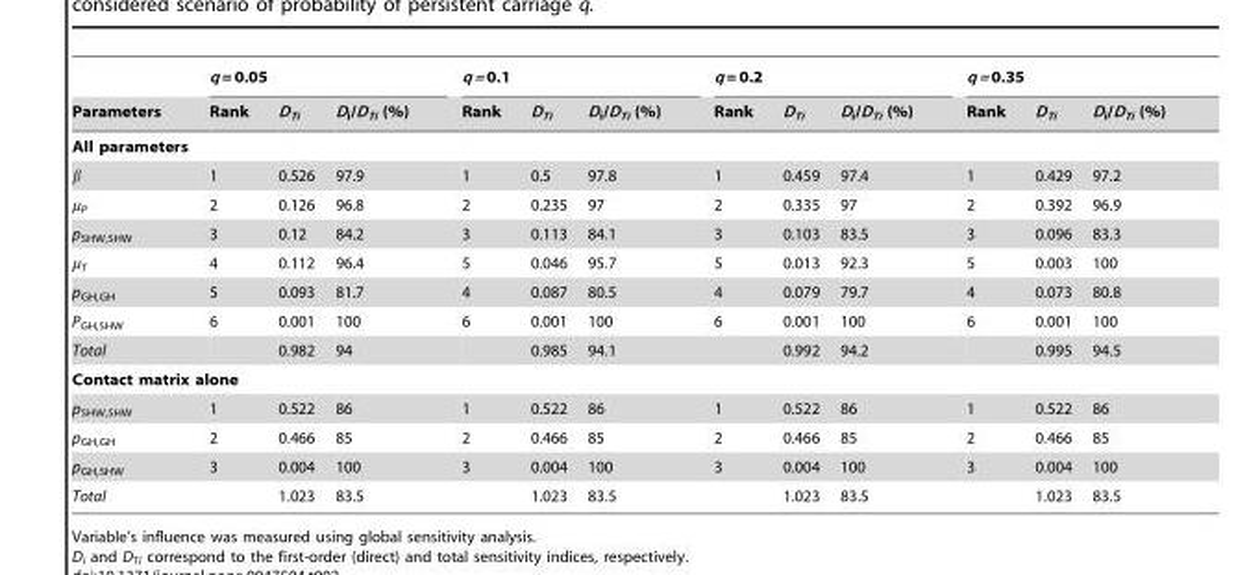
<table><thead><tr><td rowspan="2">Parameters</td><td colspan="3">q = 0.05</td><td colspan="3">q = 0.1</td><td colspan="3">q = 0.2</td><td colspan="3">q = 0.35</td></tr><tr><td>Rank</td><td>D<sub>Ti</sub></td><td>D<sub>i</sub>/D<sub>Ti</sub> (%)</td><td>Rank</td><td>D<sub>Ti</sub></td><td>D<sub>i</sub>/D<sub>Ti</sub> (%)</td><td>Rank</td><td>D<sub>Ti</sub></td><td>D<sub>i</sub>/D<sub>Ti</sub> (%)</td><td>Rank</td><td>D<sub>Ti</sub></td><td>D<sub>i</sub>/D<sub>Ti</sub> (%)</td></tr></thead><tbody><tr><td colspan="13">All parameters</td></tr><tr><td>β</td><td>1</td><td>0.526</td><td>97.9</td><td>1</td><td>0.5</td><td>97.8</td><td>1</td><td>0.459</td><td>97.4</td><td>1</td><td>0.429</td><td>97.2</td></tr><tr><td>µ<sub>P</sub></td><td>2</td><td>0.126</td><td>96.8</td><td>2</td><td>0.235</td><td>97</td><td>2</td><td>0.335</td><td>97</td><td>2</td><td>0.392</td><td>96.9</td></tr><tr><td>p<sub>SHW,SHW</sub></td><td>3</td><td>0.12</td><td>84.2</td><td>3</td><td>0.113</td><td>84.1</td><td>3</td><td>0.103</td><td>83.5</td><td>3</td><td>0.096</td><td>83.3</td></tr><tr><td>µ<sub>T</sub></td><td>4</td><td>0.112</td><td>96.4</td><td>5</td><td>0.046</td><td>95.7</td><td>5</td><td>0.013</td><td>92.3</td><td>5</td><td>0.003</td><td>100</td></tr><tr><td>p<sub>GH,GH</sub></td><td>5</td><td>0.093</td><td>81.7</td><td>4</td><td>0.087</td><td>80.5</td><td>4</td><td>0.079</td><td>79.7</td><td>4</td><td>0.073</td><td>80.8</td></tr><tr><td>P<sub>GH,SHW</sub></td><td>6</td><td>0.001</td><td>100</td><td>6</td><td>0.001</td><td>100</td><td>6</td><td>0.001</td><td>100</td><td>6</td><td>0.001</td><td>100</td></tr><tr><td>Total</td><td></td><td>0.982</td><td>94</td><td></td><td>0.985</td><td>94.1</td><td></td><td>0.992</td><td>94.2</td><td></td><td>0.995</td><td>94.5</td></tr><tr><td colspan="13">Contact matrix alone</td></tr><tr><td>p<sub>SHW,SHW</sub></td><td>1</td><td>0.522</td><td>86</td><td>1</td><td>0.522</td><td>86</td><td>1</td><td>0.522</td><td>86</td><td>1</td><td>0.522</td><td>86</td></tr><tr><td>p<sub>GH,GH</sub></td><td>2</td><td>0.466</td><td>85</td><td>2</td><td>0.466</td><td>85</td><td>2</td><td>0.466</td><td>85</td><td>2</td><td>0.466</td><td>85</td></tr><tr><td>p<sub>GH,SHW</sub></td><td>3</td><td>0.004</td><td>100</td><td>3</td><td>0.004</td><td>100</td><td>3</td><td>0.004</td><td>100</td><td>3</td><td>0.004</td><td>100</td></tr><tr><td>Total</td><td></td><td>1.023</td><td>83.5</td><td></td><td>1.023</td><td>83.5</td><td></td><td>1.023</td><td>83.5</td><td></td><td>1.023</td><td>83.5</td></tr></tbody></table>